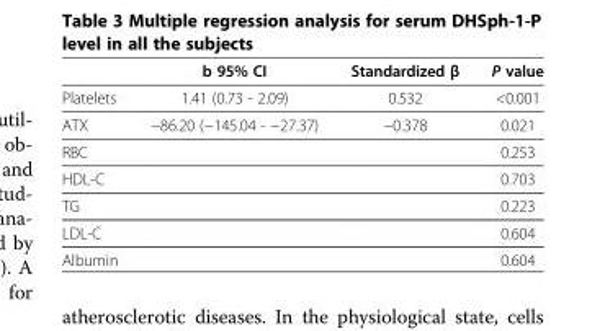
<table><thead><tr><td></td><td>b 95% CI</td><td>Standardized β</td><td>P value</td></tr></thead><tbody><tr><td>Platelets</td><td>1.41 (0.73 - 2.09)</td><td>0.532</td><td>&lt;0.001</td></tr><tr><td>ATX</td><td>−86.20 (−145.04 - −27.37)</td><td>−0.378</td><td>0.021</td></tr><tr><td>RBC</td><td></td><td></td><td>0.253</td></tr><tr><td>HDL-C</td><td></td><td></td><td>0.703</td></tr><tr><td>TG</td><td></td><td></td><td>0.223</td></tr><tr><td>LDL-C</td><td></td><td></td><td>0.604</td></tr><tr><td>Albumin</td><td></td><td></td><td>0.604</td></tr></tbody></table>